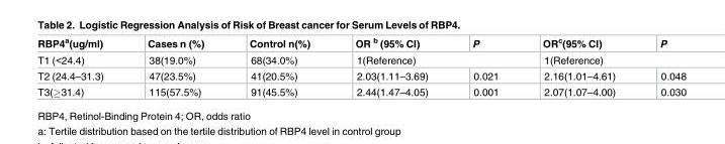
<table><thead><tr><td>RBP4<sup>a</sup>(ug/ml)</td><td>Cases n (%)</td><td>Control n(%)</td><td>OR <sup>b</sup> (95% CI)</td><td>P</td><td>OR<sup>c</sup>(95% CI)</td><td>P</td></tr></thead><tbody><tr><td>T1 (&lt;24.4)</td><td>38(19.0%)</td><td>68(34.0%)</td><td colspan="2">1(Reference)</td><td colspan="2">1(Reference)</td></tr><tr><td>T2 (24.4–31.3)</td><td>47(23.5%)</td><td>41(20.5%)</td><td>2.03(1.11–3.69)</td><td>0.021</td><td>2.16(1.01–4.61)</td><td>0.048</td></tr><tr><td>T3(≥31.4)</td><td>115(57.5%)</td><td>91(45.5%)</td><td>2.44(1.47–4.05)</td><td>0.001</td><td>2.07(1.07–4.00)</td><td>0.030</td></tr></tbody></table>